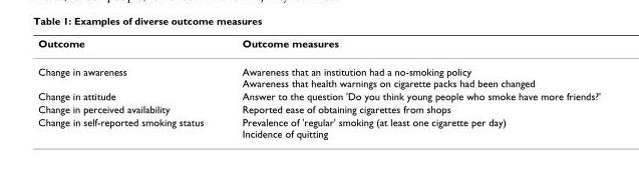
<table><thead><tr><td>Outcome</td><td>Outcome measures</td></tr></thead><tbody><tr><td>Change in awareness</td><td>Awareness that an institution had a no-smoking policy Awareness that health warnings on cigarette packs had been changed</td></tr><tr><td>Change in attitude</td><td>Answer to the question &#x27;Do you think young people who smoke have more friends?&#x27;</td></tr><tr><td>Change in perceived availability</td><td>Reported ease of obtaining cigarettes from shops</td></tr><tr><td>Change in self-reported smoking status</td><td>Prevalence of &#x27;regular&#x27; smoking (at least one cigarette per day) Incidence of quitting</td></tr></tbody></table>